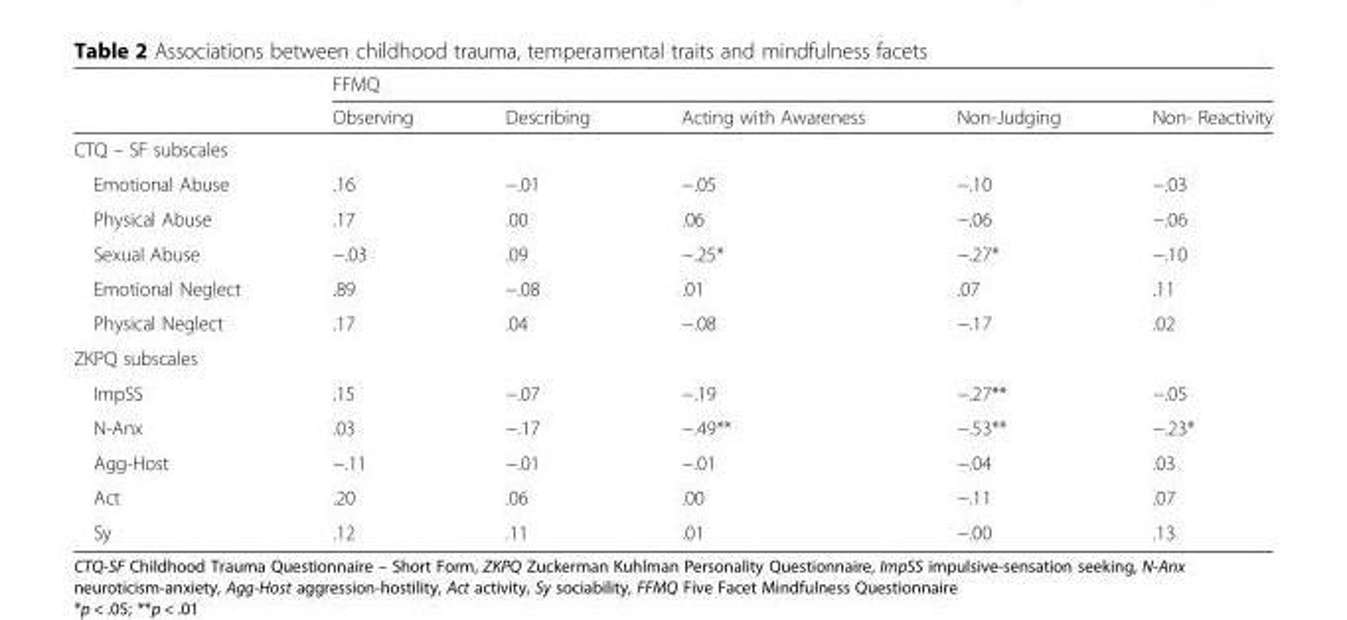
<table><thead><tr><td rowspan="2"></td><td colspan="5">FFMQ</td></tr><tr><td>Observing</td><td>Describing</td><td>Acting with Awareness</td><td>Non-Judging</td><td>Non- Reactivity</td></tr></thead><tbody><tr><td colspan="6">CTQ – SF subscales</td></tr><tr><td>Emotional Abuse</td><td>.16</td><td>−.01</td><td>−.05</td><td>−.10</td><td>−.03</td></tr><tr><td>Physical Abuse</td><td>.17</td><td>.00</td><td>.06</td><td>−.06</td><td>−.06</td></tr><tr><td>Sexual Abuse</td><td>−.03</td><td>.09</td><td>−.25*</td><td>−.27*</td><td>−.10</td></tr><tr><td>Emotional Neglect</td><td>.89</td><td>−.08</td><td>.01</td><td>.07</td><td>.11</td></tr><tr><td>Physical Neglect</td><td>.17</td><td>.04</td><td>−.08</td><td>−.17</td><td>.02</td></tr><tr><td colspan="6">ZKPQ subscales</td></tr><tr><td>ImpSS</td><td>.15</td><td>−.07</td><td>−.19</td><td>−.27**</td><td>−.05</td></tr><tr><td>N-Anx</td><td>.03</td><td>−.17</td><td>−.49**</td><td>−.53**</td><td>−.23*</td></tr><tr><td>Agg-Host</td><td>−.11</td><td>−.01</td><td>−.01</td><td>−.04</td><td>.03</td></tr><tr><td>Act</td><td>.20</td><td>.06</td><td>.00</td><td>−.11</td><td>.07</td></tr><tr><td>Sy</td><td>.12</td><td>.11</td><td>.01</td><td>−.00</td><td>.13</td></tr></tbody></table>